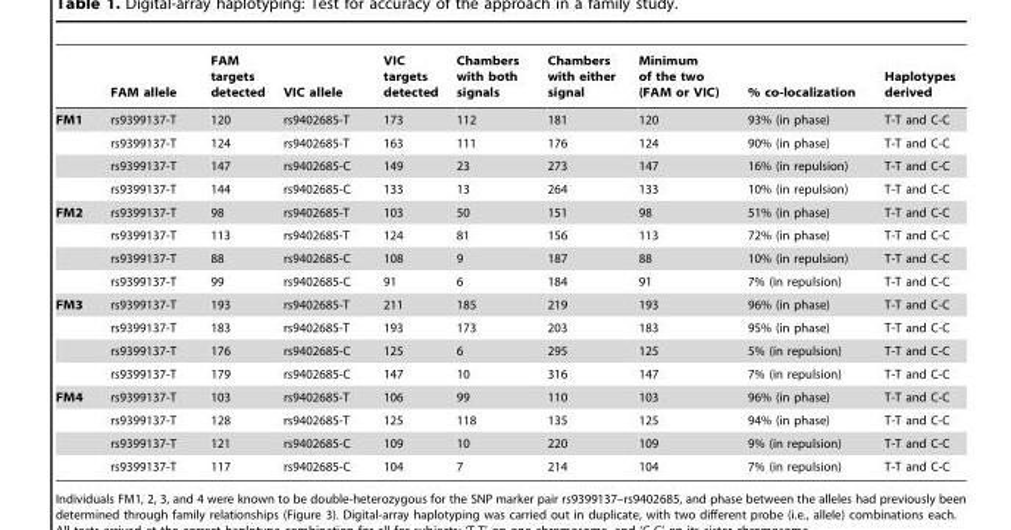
<table><thead><tr><td></td><td>FAM allele</td><td>FAM targets detected</td><td>VIC allele</td><td>VIC targets detected</td><td>Chambers with both signals</td><td>Chambers with either signal</td><td>Minimum of the two (FAM or VIC)</td><td>% co-localization</td><td>Haplotypes derived</td></tr></thead><tbody><tr><td rowspan="4">FM1</td><td>rs9399137-T</td><td>120</td><td>rs9402685-T</td><td>173</td><td>112</td><td>181</td><td>120</td><td>93% (in phase)</td><td>T-T and C-C</td></tr><tr><td>rs9399137-T</td><td>124</td><td>rs9402685-T</td><td>163</td><td>111</td><td>176</td><td>124</td><td>90% (in phase)</td><td>T-T and C-C</td></tr><tr><td>rs9399137-T</td><td>147</td><td>rs9402685-C</td><td>149</td><td>23</td><td>273</td><td>147</td><td>16% (in repulsion)</td><td>T-T and C-C</td></tr><tr><td>rs9399137-T</td><td>144</td><td>rs9402685-C</td><td>133</td><td>13</td><td>264</td><td>133</td><td>10% (in repulsion)</td><td>T-T and C-C</td></tr><tr><td rowspan="4">FM2</td><td>rs9399137-T</td><td>98</td><td>rs9402685-T</td><td>103</td><td>50</td><td>151</td><td>98</td><td>51% (in phase)</td><td>T-T and C-C</td></tr><tr><td>rs9399137-T</td><td>113</td><td>rs9402685-T</td><td>124</td><td>81</td><td>156</td><td>113</td><td>72% (in phase)</td><td>T-T and C-C</td></tr><tr><td>rs9399137-T</td><td>88</td><td>rs9402685-C</td><td>108</td><td>9</td><td>187</td><td>88</td><td>10% (in repulsion)</td><td>T-T and C-C</td></tr><tr><td>rs9399137-T</td><td>99</td><td>rs9402685-C</td><td>91</td><td>6</td><td>184</td><td>91</td><td>7% (in repulsion)</td><td>T-T and C-C</td></tr><tr><td rowspan="4">FM3</td><td>rs9399137-T</td><td>193</td><td>rs9402685-T</td><td>211</td><td>185</td><td>219</td><td>193</td><td>96% (in phase)</td><td>T-T and C-C</td></tr><tr><td>rs9399137-T</td><td>183</td><td>rs9402685-T</td><td>193</td><td>173</td><td>203</td><td>183</td><td>95% (in phase)</td><td>T-T and C-C</td></tr><tr><td>rs9399137-T</td><td>176</td><td>rs9402685-C</td><td>125</td><td>6</td><td>295</td><td>125</td><td>5% (in repulsion)</td><td>T-T and C-C</td></tr><tr><td>rs9399137-T</td><td>179</td><td>rs9402685-C</td><td>147</td><td>10</td><td>316</td><td>147</td><td>7% (in repulsion)</td><td>T-T and C-C</td></tr><tr><td rowspan="4">FM4</td><td>rs9399137-T</td><td>103</td><td>rs9402685-T</td><td>106</td><td>99</td><td>110</td><td>103</td><td>96% (in phase)</td><td>T-T and C-C</td></tr><tr><td>rs9399137-T</td><td>128</td><td>rs9402685-T</td><td>125</td><td>118</td><td>135</td><td>125</td><td>94% (in phase)</td><td>T-T and C-C</td></tr><tr><td>rs9399137-T</td><td>121</td><td>rs9402685-C</td><td>109</td><td>10</td><td>220</td><td>109</td><td>9% (in repulsion)</td><td>T-T and C-C</td></tr><tr><td>rs9399137-T</td><td>117</td><td>rs9402685-C</td><td>104</td><td>7</td><td>214</td><td>104</td><td>7% (in repulsion)</td><td>T-T and C-C</td></tr></tbody></table>